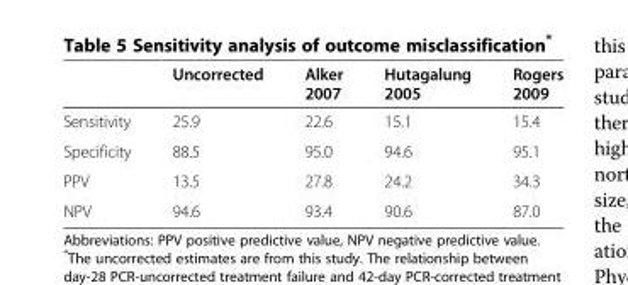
<table><thead><tr><td></td><td>Uncorrected</td><td>Alker 2007</td><td>Hutagalung 2005</td><td>Rogers 2009</td></tr></thead><tbody><tr><td>Sensitivity</td><td>25.9</td><td>22.6</td><td>15.1</td><td>15.4</td></tr><tr><td>Specificity</td><td>88.5</td><td>95.0</td><td>94.6</td><td>95.1</td></tr><tr><td>PPV</td><td>13.5</td><td>27.8</td><td>24.2</td><td>34.3</td></tr><tr><td>NPV</td><td>94.6</td><td>93.4</td><td>90.6</td><td>87.0</td></tr></tbody></table>